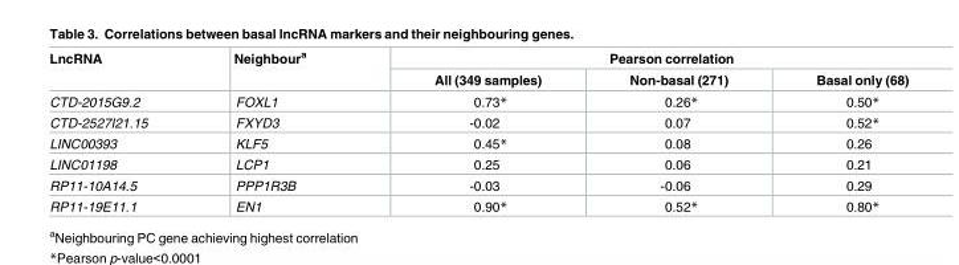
<table><thead><tr><td rowspan="2">LncRNA</td><td rowspan="2">Neighbour<sup>a</sup></td><td colspan="3">Pearson correlation</td></tr><tr><td>All (349 samples)</td><td>Non-basal (271)</td><td>Basal only (68)</td></tr></thead><tbody><tr><td>CTD-2015G9.2</td><td>FOXL1</td><td>0.73*</td><td>0.26*</td><td>0.50*</td></tr><tr><td>CTD-2527I21.15</td><td>FXYD3</td><td>-0.02</td><td>0.07</td><td>0.52*</td></tr><tr><td>LINC00393</td><td>KLF5</td><td>0.45*</td><td>0.08</td><td>0.26</td></tr><tr><td>LINC01198</td><td>LCP1</td><td>0.25</td><td>0.06</td><td>0.21</td></tr><tr><td>RP11-10A14.5</td><td>PPP1R3B</td><td>-0.03</td><td>-0.06</td><td>0.29</td></tr><tr><td>RP11-19E11.1</td><td>EN1</td><td>0.90*</td><td>0.52*</td><td>0.80*</td></tr></tbody></table>